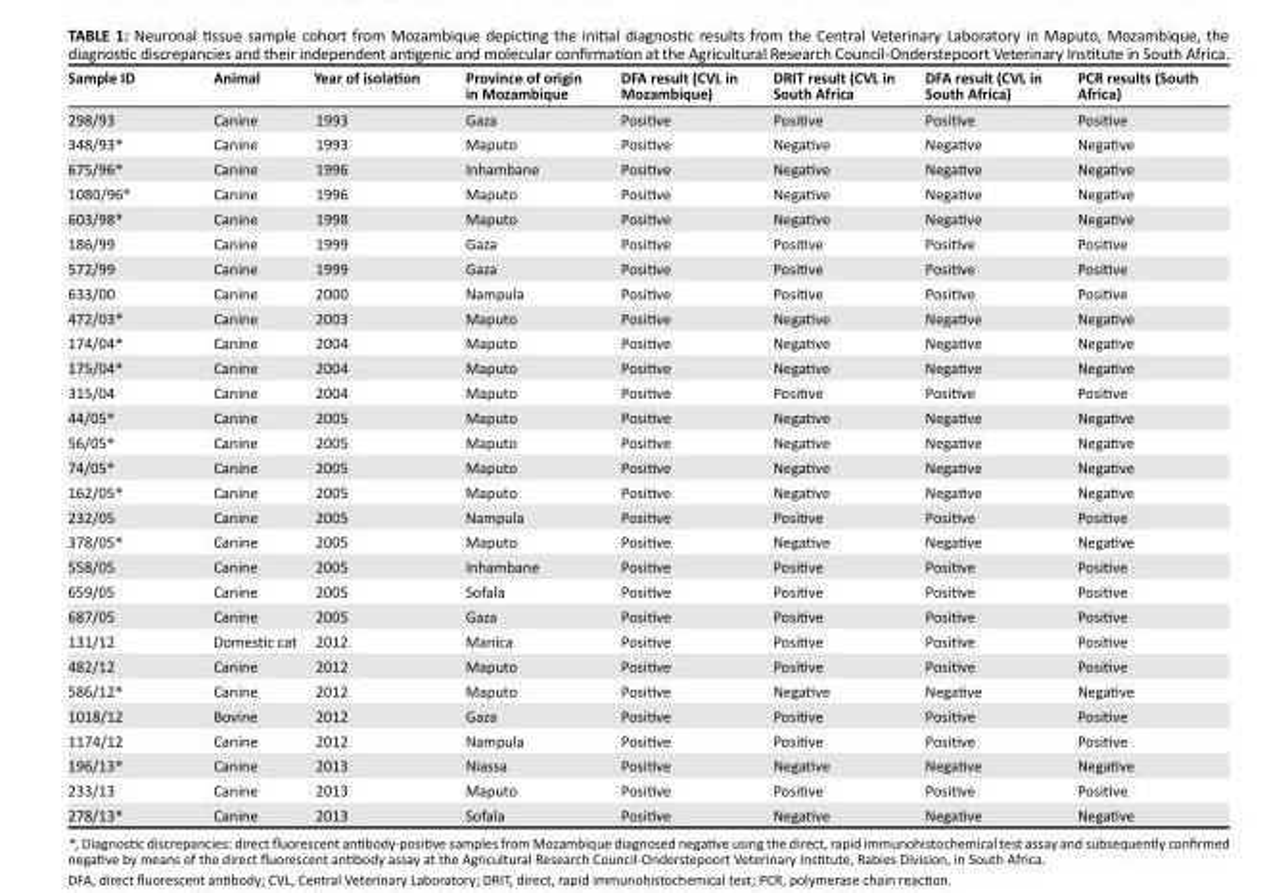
<table><thead><tr><td>Sample ID</td><td>Animal</td><td>Year of isolation</td><td>Province of origin in Mozambique</td><td>DFA result (CVL in Mozambique)</td><td>DRIT result (CVL in South Africa</td><td>DFA result (CVL in South Africa)</td><td>PCR results (South Africa)</td></tr></thead><tbody><tr><td>298/93</td><td>Canine</td><td>1993</td><td>Gaza</td><td>Positive</td><td>Positive</td><td>Positive</td><td>Positive</td></tr><tr><td>348/93*</td><td>Canine</td><td>1993</td><td>Maputo</td><td>Positive</td><td>Negative</td><td>Negative</td><td>Negative</td></tr><tr><td>675/96*</td><td>Canine</td><td>1996</td><td>Inhambane</td><td>Positive</td><td>Negative</td><td>Negative</td><td>Negative</td></tr><tr><td>1080/96*</td><td>Canine</td><td>1996</td><td>Maputo</td><td>Positive</td><td>Negative</td><td>Negative</td><td>Negative</td></tr><tr><td>603/98*</td><td>Canine</td><td>1998</td><td>Maputo</td><td>Positive</td><td>Negative</td><td>Negative</td><td>Negative</td></tr><tr><td>186/99</td><td>Canine</td><td>1999</td><td>Gaza</td><td>Positive</td><td>Positive</td><td>Positive</td><td>Positive</td></tr><tr><td>572/99</td><td>Canine</td><td>1999</td><td>Gaza</td><td>Positive</td><td>Positive</td><td>Positive</td><td>Positive</td></tr><tr><td>633/00</td><td>Canine</td><td>2000</td><td>Nampula</td><td>Positive</td><td>Positive</td><td>Positive</td><td>Positive</td></tr><tr><td>472/03*</td><td>Canine</td><td>2003</td><td>Maputo</td><td>Positive</td><td>Negative</td><td>Negative</td><td>Negative</td></tr><tr><td>174/04*</td><td>Canine</td><td>2004</td><td>Maputo</td><td>Positive</td><td>Negative</td><td>Negative</td><td>Negative</td></tr><tr><td>175/04*</td><td>Canine</td><td>2004</td><td>Maputo</td><td>Positive</td><td>Negative</td><td>Negative</td><td>Negative</td></tr><tr><td>315/04</td><td>Canine</td><td>2004</td><td>Maputo</td><td>Positive</td><td>Positive</td><td>Positive</td><td>Positive</td></tr><tr><td>44/05*</td><td>Canine</td><td>2005</td><td>Maputo</td><td>Positive</td><td>Negative</td><td>Negative</td><td>Negative</td></tr><tr><td>56/05*</td><td>Canine</td><td>2005</td><td>Maputo</td><td>Positive</td><td>Negative</td><td>Negative</td><td>Negative</td></tr><tr><td>74/05*</td><td>Canine</td><td>2005</td><td>Maputo</td><td>Positive</td><td>Negative</td><td>Negative</td><td>Negative</td></tr><tr><td>162/05*</td><td>Canine</td><td>2005</td><td>Maputo</td><td>Positive</td><td>Negative</td><td>Negative</td><td>Negative</td></tr><tr><td>232/05</td><td>Canine</td><td>2005</td><td>Nampula</td><td>Positive</td><td>Positive</td><td>Positive</td><td>Positive</td></tr><tr><td>378/05*</td><td>Canine</td><td>2005</td><td>Maputo</td><td>Positive</td><td>Negative</td><td>Negative</td><td>Negative</td></tr><tr><td>558/05</td><td>Canine</td><td>2005</td><td>Inhambane</td><td>Positive</td><td>Positive</td><td>Positive</td><td>Positive</td></tr><tr><td>659/05</td><td>Canine</td><td>2005</td><td>Sofala</td><td>Positive</td><td>Positive</td><td>Positive</td><td>Positive</td></tr><tr><td>687/05</td><td>Canine</td><td>2005</td><td>Gaza</td><td>Positive</td><td>Positive</td><td>Positive</td><td>Positive</td></tr><tr><td>131/12</td><td>Domestic cat</td><td>2012</td><td>Manica</td><td>Positive</td><td>Positive</td><td>Positive</td><td>Positive</td></tr><tr><td>482/12</td><td>Canine</td><td>2012</td><td>Maputo</td><td>Positive</td><td>Positive</td><td>Positive</td><td>Positive</td></tr><tr><td>586/12*</td><td>Canine</td><td>2012</td><td>Maputo</td><td>Positive</td><td>Negative</td><td>Negative</td><td>Negative</td></tr><tr><td>1018/12</td><td>Bovine</td><td>2012</td><td>Gaza</td><td>Positive</td><td>Positive</td><td>Positive</td><td>Positive</td></tr><tr><td>1174/12</td><td>Canine</td><td>2012</td><td>Nampula</td><td>Positive</td><td>Positive</td><td>Positive</td><td>Positive</td></tr><tr><td>196/13*</td><td>Canine</td><td>2013</td><td>Niassa</td><td>Positive</td><td>Negative</td><td>Negative</td><td>Negative</td></tr><tr><td>233/13</td><td>Canine</td><td>2013</td><td>Maputo</td><td>Positive</td><td>Positive</td><td>Positive</td><td>Positive</td></tr><tr><td>278/13*</td><td>Canine</td><td>2013</td><td>Sofala</td><td>Positive</td><td>Negative</td><td>Negative</td><td>Negative</td></tr></tbody></table>